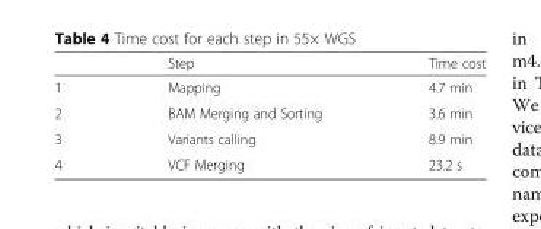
<table><thead><tr><td></td><td>Step</td><td>Time cost</td></tr></thead><tbody><tr><td>1</td><td>Mapping</td><td>4.7 min</td></tr><tr><td>2</td><td>BAM Merging and Sorting</td><td>3.6 min</td></tr><tr><td>3</td><td>Variants calling</td><td>8.9 min</td></tr><tr><td>4</td><td>VCF Merging</td><td>23.2 s</td></tr></tbody></table>